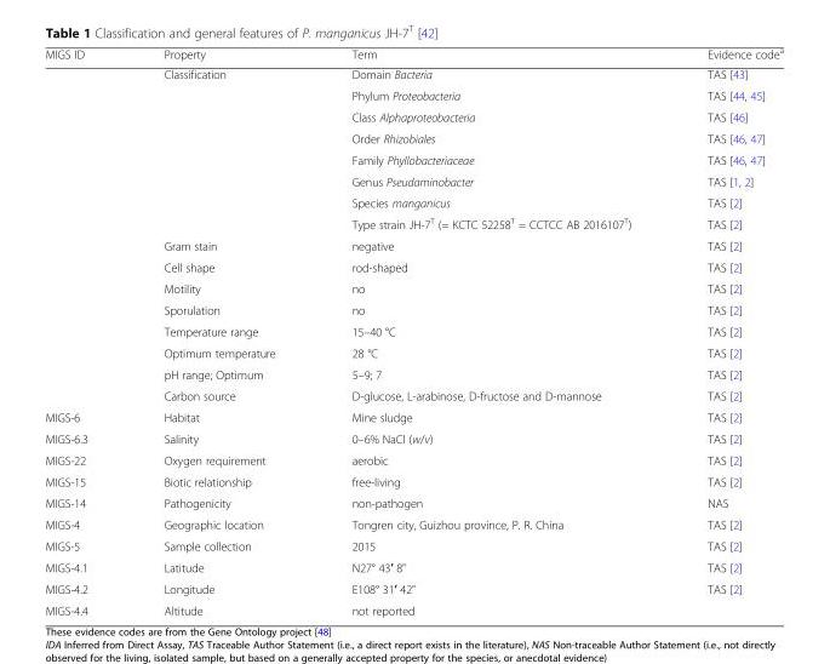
<table><thead><tr><td>MIGS ID</td><td>Property</td><td>Term</td><td>Evidence code<sup>a</sup></td></tr></thead><tbody><tr><td></td><td rowspan="8">Classification</td><td>Domain Bacteria</td><td>TAS [43]</td></tr><tr><td></td><td>Phylum Proteobacteria</td><td>TAS [44, 45]</td></tr><tr><td></td><td>Class Alphaproteobacteria</td><td>TAS [46]</td></tr><tr><td></td><td>Order Rhizobiales</td><td>TAS [46, 47]</td></tr><tr><td></td><td>Family Phyllobacteriaceae</td><td>TAS [46, 47]</td></tr><tr><td></td><td>Genus Pseudaminobacter</td><td>TAS [1, 2]</td></tr><tr><td></td><td>Species manganicus</td><td>TAS [2]</td></tr><tr><td></td><td>Type strain JH-7<sup>T</sup> (= KCTC 52258<sup>T</sup> = CCTCC AB 2016107<sup>T</sup>)</td><td>TAS [2]</td></tr><tr><td></td><td>Gram stain</td><td>negative</td><td>TAS [2]</td></tr><tr><td></td><td>Cell shape</td><td>rod-shaped</td><td>TAS [2]</td></tr><tr><td></td><td>Motility</td><td>no</td><td>TAS [2]</td></tr><tr><td></td><td>Sporulation</td><td>no</td><td>TAS [2]</td></tr><tr><td></td><td>Temperature range</td><td>15–40 °C</td><td>TAS [2]</td></tr><tr><td></td><td>Optimum temperature</td><td>28 °C</td><td>TAS [2]</td></tr><tr><td></td><td>pH range; Optimum</td><td>5–9; 7</td><td>TAS [2]</td></tr><tr><td></td><td>Carbon source</td><td>D-glucose, L-arabinose, D-fructose and D-mannose</td><td>TAS [2]</td></tr><tr><td>MIGS-6</td><td>Habitat</td><td>Mine sludge</td><td>TAS [2]</td></tr><tr><td>MIGS-6.3</td><td>Salinity</td><td>0–6% NaCl (w/v)</td><td>TAS [2]</td></tr><tr><td>MIGS-22</td><td>Oxygen requirement</td><td>aerobic</td><td>TAS [2]</td></tr><tr><td>MIGS-15</td><td>Biotic relationship</td><td>free-living</td><td>TAS [2]</td></tr><tr><td>MIGS-14</td><td>Pathogenicity</td><td>non-pathogen</td><td>NAS</td></tr><tr><td>MIGS-4</td><td>Geographic location</td><td>Tongren city, Guizhou province, P. R. China</td><td>TAS [2]</td></tr><tr><td>MIGS-5</td><td>Sample collection</td><td>2015</td><td>TAS [2]</td></tr><tr><td>MIGS-4.1</td><td>Latitude</td><td>N27° 43′ 8&quot;</td><td>TAS [2]</td></tr><tr><td>MIGS-4.2</td><td>Longitude</td><td>E108° 31′ 42&quot;</td><td>TAS [2]</td></tr><tr><td>MIGS-4.4</td><td>Altitude</td><td>not reported</td><td></td></tr></tbody></table>